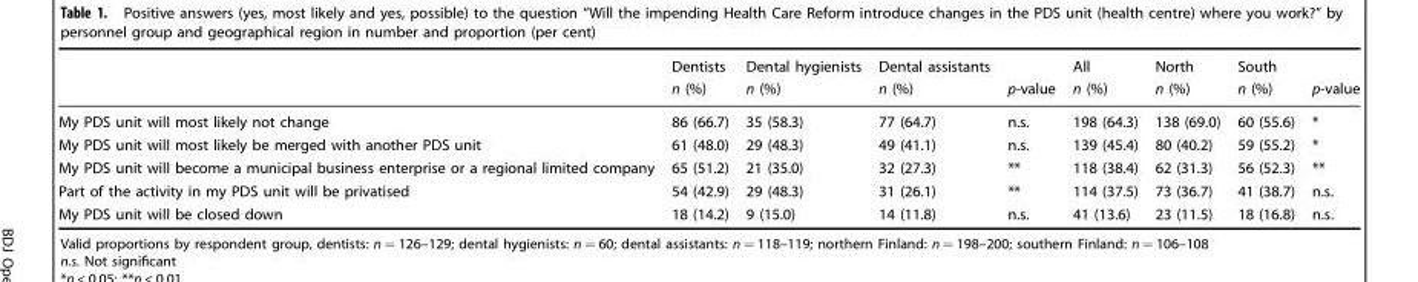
<table><thead><tr><td rowspan="2"></td><td rowspan="2">Dentists n (%)</td><td rowspan="2">Dental hygienists n (%)</td><td rowspan="2">Dental assistants n (%)</td><td rowspan="2">p-value</td><td rowspan="2">All n (%)</td><td rowspan="2">North n (%)</td><td rowspan="2">South n (%)</td><td rowspan="2">p-value</td></tr><tr></tr></thead><tbody><tr><td>My PDS unit will most likely not change</td><td>86 (66.7)</td><td>35 (58.3)</td><td>77 (64.7)</td><td>n.s.</td><td>198 (64.3)</td><td>138 (69.0)</td><td>60 (55.6)</td><td>*</td></tr><tr><td>My PDS unit will most likely be merged with another PDS unit</td><td>61 (48.0)</td><td>29 (48.3)</td><td>49 (41.1)</td><td>n.s.</td><td>139 (45.4)</td><td>80 (40.2)</td><td>59 (55.2)</td><td>*</td></tr><tr><td>My PDS unit will become a municipal business enterprise or a regional limited company</td><td>65 (51.2)</td><td>21 (35.0)</td><td>32 (27.3)</td><td>**</td><td>118 (38.4)</td><td>62 (31.3)</td><td>56 (52.3)</td><td>**</td></tr><tr><td>Part of the activity in my PDS unit will be privatised</td><td>54 (42.9)</td><td>29 (48.3)</td><td>31 (26.1)</td><td>**</td><td>114 (37.5)</td><td>73 (36.7)</td><td>41 (38.7)</td><td>n.s.</td></tr><tr><td>My PDS unit will be closed down</td><td>18 (14.2)</td><td>9 (15.0)</td><td>14 (11.8)</td><td>n.s.</td><td>41 (13.6)</td><td>23 (11.5)</td><td>18 (16.8)</td><td>n.s.</td></tr></tbody></table>